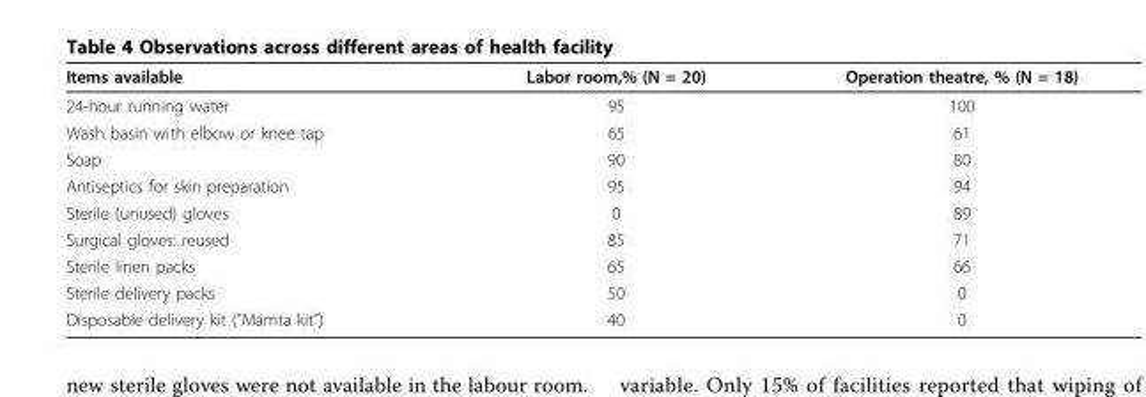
<table><thead><tr><td>Items available</td><td>Labor room,% (N = 20)</td><td>Operation theatre, % (N = 18)</td></tr></thead><tbody><tr><td>24-hour running water</td><td>95</td><td>100</td></tr><tr><td>Wash basin with elbow or knee tap</td><td>65</td><td>61</td></tr><tr><td>Soap</td><td>90</td><td>80</td></tr><tr><td>Antiseptics for skin preparation</td><td>95</td><td>94</td></tr><tr><td>Sterile (unused) gloves</td><td>0</td><td>89</td></tr><tr><td>Surgical gloves: reused</td><td>85</td><td>71</td></tr><tr><td>Sterile linen packs</td><td>65</td><td>66</td></tr><tr><td>Sterile delivery packs</td><td>50</td><td>0</td></tr><tr><td>Disposable delivery kit (&quot;Mamta kit”)</td><td>40</td><td>0</td></tr></tbody></table>